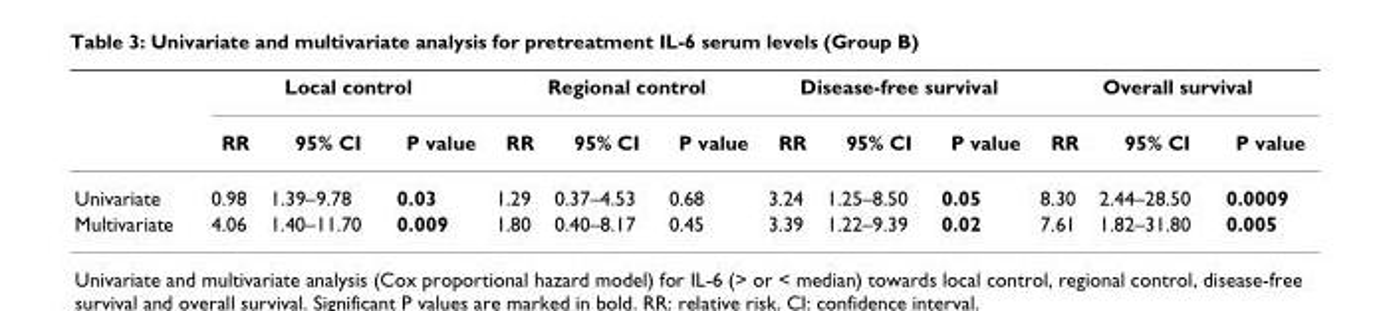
<table><thead><tr><td rowspan="2"></td><td colspan="3">Local control</td><td colspan="3">Regional control</td><td colspan="3">Disease-free survival</td><td colspan="3">Overall survival</td></tr><tr><td>RR</td><td>95% CI</td><td>P value</td><td>RR</td><td>95% CI</td><td>P value</td><td>RR</td><td>95% CI</td><td>P value</td><td>RR</td><td>95% CI</td><td>P value</td></tr></thead><tbody><tr><td>Univariate</td><td>0.98</td><td>1.39–9.78</td><td>0.03</td><td>1.29</td><td>0.37–4.53</td><td>0.68</td><td>3.24</td><td>1.25–8.50</td><td>0.05</td><td>8.30</td><td>2.44–28.50</td><td>0.0009</td></tr><tr><td>Multivariate</td><td>4.06</td><td>1.40–11.70</td><td>0.009</td><td>1.80</td><td>0.40–8.17</td><td>0.45</td><td>3.39</td><td>1.22–9.39</td><td>0.02</td><td>7.61</td><td>1.82–31.80</td><td>0.005</td></tr></tbody></table>